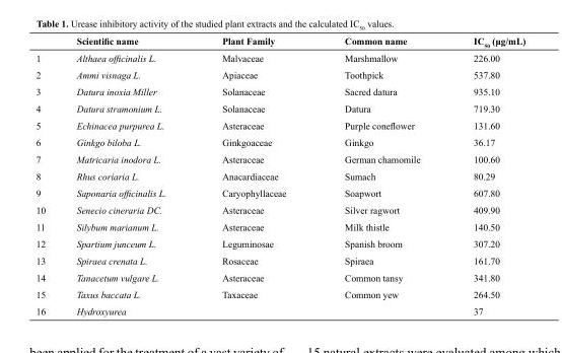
<table><thead><tr><td>IC<sub>50</sub> (μg/mL)</td><td>Common name</td><td>Plant Family</td><td>Scientific name</td><td></td></tr></thead><tbody><tr><td>226.00</td><td>Marshmallow</td><td>Malvaceae</td><td>Althaea officinalis L.</td><td>1</td></tr><tr><td>537.80</td><td>Toothpick</td><td>Apiaceae</td><td>Ammi visnaga L.</td><td>2</td></tr><tr><td>935.10</td><td>Sacred datura</td><td>Solanaceae</td><td>Datura inoxia Miller</td><td>3</td></tr><tr><td>719.30</td><td>Datura</td><td>Solanaceae</td><td>Datura stramonium L.</td><td>4</td></tr><tr><td>131.60</td><td>Purple coneflower</td><td>Asteraceae</td><td>Echinacea purpurea L.</td><td>5</td></tr><tr><td>36.17</td><td>Ginkgo</td><td>Ginkgoaceae</td><td>Ginkgo biloba L.</td><td>6</td></tr><tr><td>100.60</td><td>German chamomile</td><td>Asteraceae</td><td>Matricaria inodora L.</td><td>7</td></tr><tr><td>80.29</td><td>Sumach</td><td>Anacardiaceae</td><td>Rhus coriaria L.</td><td>8</td></tr><tr><td>607.80</td><td>Soapwort</td><td>Caryophyllaceae</td><td>Saponaria officinalis L.</td><td>9</td></tr><tr><td>409.90</td><td>Silver ragwort</td><td>Asteraceae</td><td>Senecio cineraria DC.</td><td>10</td></tr><tr><td>140.50</td><td>Milk thistle</td><td>Asteraceae</td><td>Silybum marianum L.</td><td>11</td></tr><tr><td>307.20</td><td>Spanish broom</td><td>Leguminosae</td><td>Spartium junceum L.</td><td>12</td></tr><tr><td>161.70</td><td>Spiraea</td><td>Rosaceae</td><td>Spiraea crenata L.</td><td>13</td></tr><tr><td>341.80</td><td>Common tansy</td><td>Asteraceae</td><td>Tanacetum vulgare L.</td><td>14</td></tr><tr><td>264.50</td><td>Common yew</td><td>Taxaceae</td><td>Taxus baccata L.</td><td>15</td></tr><tr><td>37</td><td></td><td></td><td>Hydroxyurea</td><td>16</td></tr></tbody></table>